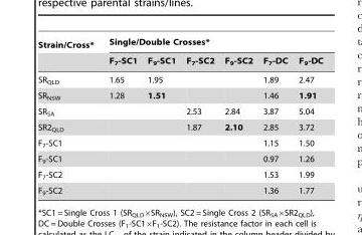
<table><thead><tr><td rowspan="2">Strain/Cross*</td><td colspan="6">Single/Double Crosses*</td></tr><tr><td>F<sub>7</sub>-SC1</td><td>F<sub>9</sub>-SC1</td><td>F<sub>7</sub>-SC2</td><td>F<sub>9</sub>-SC2</td><td>F<sub>7</sub>-DC</td><td>F<sub>9</sub>-DC</td></tr></thead><tbody><tr><td>SR<sub>QLD</sub></td><td>1.65</td><td>1.95</td><td></td><td></td><td>1.89</td><td>2.47</td></tr><tr><td>SR<sub>NSW</sub></td><td>1.28</td><td>1.51</td><td></td><td></td><td>1.46</td><td>1.91</td></tr><tr><td>SR<sub>SA</sub></td><td></td><td></td><td>2.53</td><td>2.84</td><td>3.87</td><td>5.04</td></tr><tr><td>SR2<sub>QLD</sub></td><td></td><td></td><td>1.87</td><td>2.10</td><td>2.85</td><td>3.72</td></tr><tr><td>F<sub>7</sub>-SC1</td><td></td><td></td><td></td><td></td><td>1.15</td><td>1.50</td></tr><tr><td>F<sub>9</sub>-SC1</td><td></td><td></td><td></td><td></td><td>0.97</td><td>1.26</td></tr><tr><td>F<sub>7</sub>-SC2</td><td></td><td></td><td></td><td></td><td>1.53</td><td>1.99</td></tr><tr><td>F<sub>9</sub>-SC2</td><td></td><td></td><td></td><td></td><td>1.36</td><td>1.77</td></tr></tbody></table>